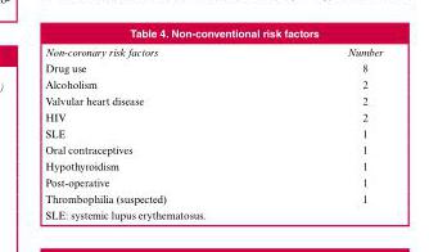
<table><thead><tr><td>Non-coronary risk factors</td><td>Number</td></tr></thead><tbody><tr><td>Drug use</td><td>8</td></tr><tr><td>Alcoholism</td><td>2</td></tr><tr><td>Valvular heart disease</td><td>2</td></tr><tr><td>HIV</td><td>2</td></tr><tr><td>SLE</td><td>1</td></tr><tr><td>Oral contraceptives</td><td>1</td></tr><tr><td>Hypothyroidism</td><td>1</td></tr><tr><td>Post-operative</td><td>1</td></tr><tr><td>Thrombophilia (suspected)</td><td>1</td></tr></tbody></table>